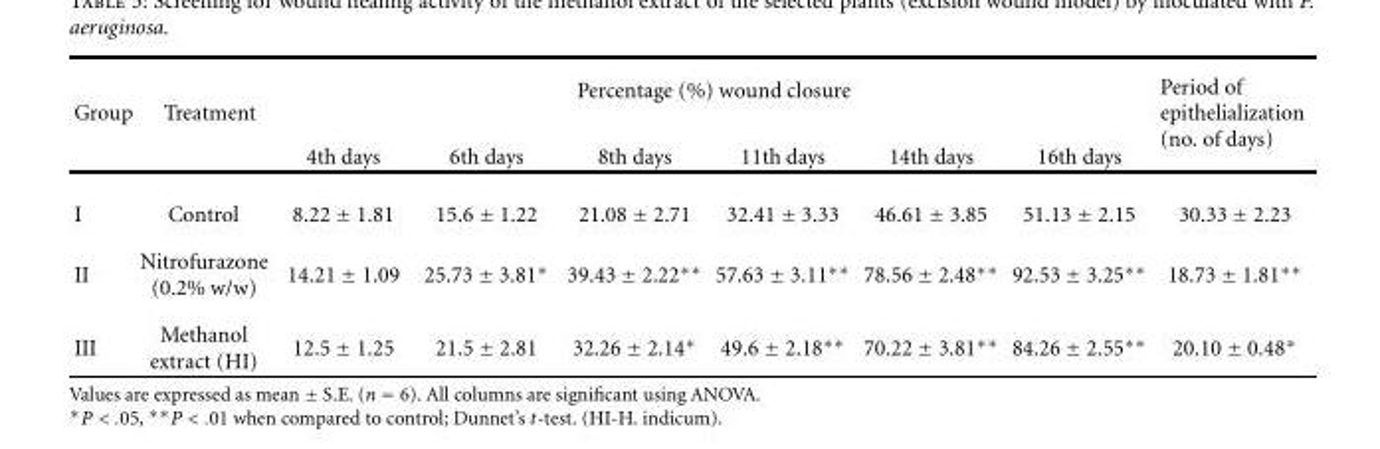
<table><thead><tr><td rowspan="2">Group</td><td rowspan="2">Treatment</td><td colspan="6">Percentage (%) wound closure</td><td rowspan="2">Period of epithelialization (no. of days)</td></tr><tr><td>4th days</td><td>6th days</td><td>8th days</td><td>11th days</td><td>14th days</td><td>16th days</td></tr></thead><tbody><tr><td>I</td><td>Control</td><td>8.22 ± 1.81</td><td>15.6 ± 1.22</td><td>21.08 ± 2.71</td><td>32.41 ± 3.33</td><td>46.61 ± 3.85</td><td>51.13 ± 2.15</td><td>30.33 ± 2.23</td></tr><tr><td>II</td><td>Nitrofurazone (0.2% w/w)</td><td>14.21 ± 1.09</td><td>25.73 ± 3.81∗</td><td>39.43 ± 2.22∗∗</td><td>57.63 ± 3.11∗∗</td><td>78.56 ± 2.48∗∗</td><td>92.53 ± 3.25∗∗</td><td>18.73 ± 1.81∗∗</td></tr><tr><td>III</td><td>Methanol extract (HI)</td><td>12.5 ± 1.25</td><td>21.5 ± 2.81</td><td>32.26 ± 2.14∗</td><td>49.6 ± 2.18∗∗</td><td>70.22 ± 3.81∗∗</td><td>84.26 ± 2.55∗∗</td><td>20.10 ± 0.48∗</td></tr></tbody></table>